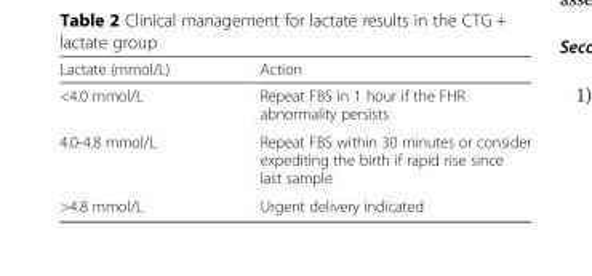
<table><thead><tr><td>Lactate (mmol/L)</td><td>Action</td></tr></thead><tbody><tr><td>&lt;4.0 mmol/L</td><td>Repeat FBS in 1 hour if the FHR abnormality persists</td></tr><tr><td>4.0-4.8 mmol/L</td><td>Repeat FBS within 30 minutes or consider expediting the birth if rapid rise since last sample</td></tr><tr><td>&gt;4.8 mmol/L</td><td>Urgent delivery indicated</td></tr></tbody></table>